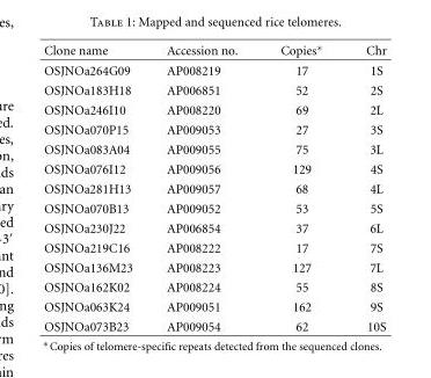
<table><thead><tr><td>Clone name</td><td>Accession no.</td><td>Copies∗</td><td>Chr</td></tr></thead><tbody><tr><td>OSJNOa264G09</td><td>AP008219</td><td>17</td><td>1S</td></tr><tr><td>OSJNOa183H18</td><td>AP006851</td><td>52</td><td>2S</td></tr><tr><td>OSJNOa246I10</td><td>AP008220</td><td>69</td><td>2L</td></tr><tr><td>OSJNOa070P15</td><td>AP009053</td><td>27</td><td>3S</td></tr><tr><td>OSJNOa083A04</td><td>AP009055</td><td>75</td><td>3L</td></tr><tr><td>OSJNOa076I12</td><td>AP009056</td><td>129</td><td>4S</td></tr><tr><td>OSJNOa281H13</td><td>AP009057</td><td>68</td><td>4L</td></tr><tr><td>OSJNOa070B13</td><td>AP009052</td><td>53</td><td>5S</td></tr><tr><td>OSJNOa230J22</td><td>AP006854</td><td>37</td><td>6L</td></tr><tr><td>OSJNOa219C16</td><td>AP008222</td><td>17</td><td>7S</td></tr><tr><td>OSJNOa136M23</td><td>AP008223</td><td>127</td><td>7L</td></tr><tr><td>OSJNOa162K02</td><td>AP008224</td><td>55</td><td>8S</td></tr><tr><td>OSJNOa063K24</td><td>AP009051</td><td>162</td><td>9S</td></tr><tr><td>OSJNOa073B23</td><td>AP009054</td><td>62</td><td>10S</td></tr></tbody></table>